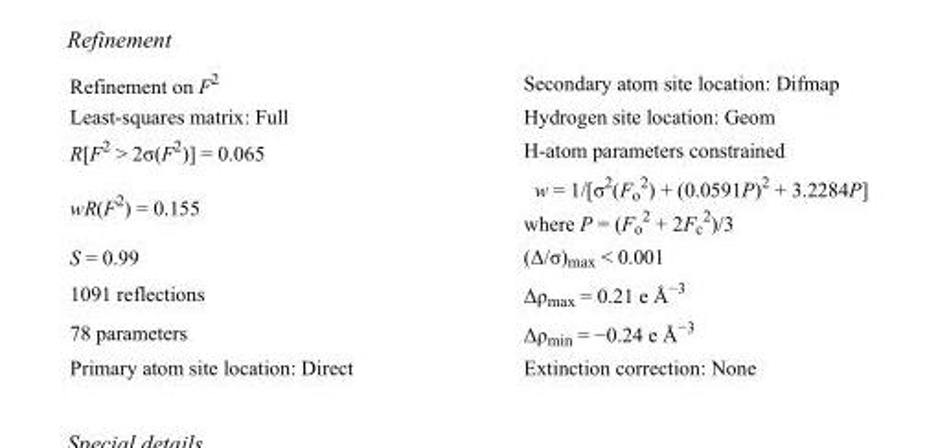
<table><tbody><tr><td>Refinement on F<sup>2</sup></td><td>Secondary atom site location: Difmap</td></tr><tr><td>Least-squares matrix: Full</td><td>Hydrogen site location: Geom</td></tr><tr><td>R[F<sup>2</sup> &gt; 2σ(F<sup>2</sup>)] = 0.065</td><td>H-atom parameters constrained</td></tr><tr><td>wR(F<sup>2</sup>) = 0.155</td><td>w = 1/[σ<sup>2</sup>(F<sub>o</sub> <sup>2</sup>) + (0.0591P)<sup>2</sup> + 3.2284P] where P = (F<sub>o</sub> <sup>2</sup> + 2F<sub>c</sub> <sup>2</sup>)/3</td></tr><tr><td>S = 0.99</td><td>(Δ/σ)<sub>max</sub> &lt; 0.001</td></tr><tr><td>1091 reflections</td><td>Δρ<sub>max</sub> = 0.21 e Å<sup>−3</sup></td></tr><tr><td>78 parameters</td><td>Δρ<sub>min</sub> = −0.24 e Å<sup>−3</sup></td></tr><tr><td>Primary atom site location: Direct</td><td>Extinction correction: None</td></tr></tbody></table>